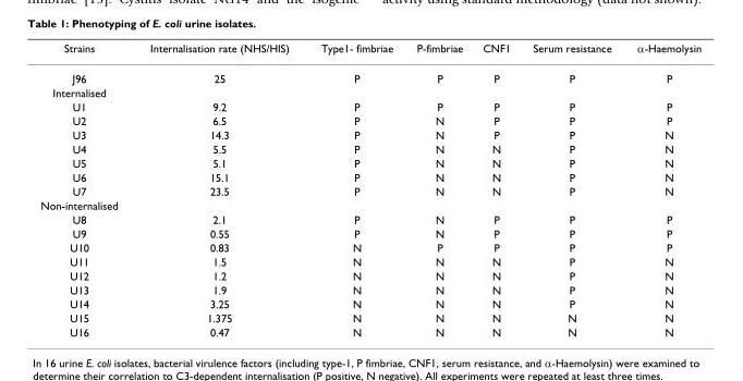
<table><thead><tr><td>Strains</td><td>Internalisation rate (NHS/HIS)</td><td>Type1- fimbriae</td><td>P-fimbriae</td><td>CNF1</td><td>Serum resistance</td><td>α-Haemolysin</td></tr></thead><tbody><tr><td>J96</td><td>25</td><td>P</td><td>P</td><td>P</td><td>P</td><td>P</td></tr><tr><td colspan="7">Internalised</td></tr><tr><td>U1</td><td>9.2</td><td>P</td><td>P</td><td>P</td><td>P</td><td>P</td></tr><tr><td>U2</td><td>6.5</td><td>P</td><td>N</td><td>P</td><td>P</td><td>P</td></tr><tr><td>U3</td><td>14.3</td><td>P</td><td>N</td><td>P</td><td>P</td><td>N</td></tr><tr><td>U4</td><td>5.5</td><td>P</td><td>N</td><td>N</td><td>P</td><td>N</td></tr><tr><td>U5</td><td>5.1</td><td>P</td><td>N</td><td>N</td><td>P</td><td>N</td></tr><tr><td>U6</td><td>15.1</td><td>P</td><td>N</td><td>N</td><td>P</td><td>N</td></tr><tr><td>U7</td><td>23.5</td><td>P</td><td>N</td><td>N</td><td>P</td><td>N</td></tr><tr><td colspan="7">Non-internalised</td></tr><tr><td>U8</td><td>2.1</td><td>P</td><td>N</td><td>P</td><td>P</td><td>P</td></tr><tr><td>U9</td><td>0.55</td><td>P</td><td>N</td><td>P</td><td>P</td><td>P</td></tr><tr><td>U10</td><td>0.83</td><td>N</td><td>P</td><td>P</td><td>P</td><td>P</td></tr><tr><td>U11</td><td>1.5</td><td>N</td><td>N</td><td>N</td><td>P</td><td>N</td></tr><tr><td>U12</td><td>1.2</td><td>N</td><td>N</td><td>N</td><td>P</td><td>N</td></tr><tr><td>U13</td><td>1.9</td><td>N</td><td>N</td><td>N</td><td>P</td><td>N</td></tr><tr><td>U14</td><td>3.25</td><td>N</td><td>N</td><td>N</td><td>P</td><td>N</td></tr><tr><td>U15</td><td>1.375</td><td>N</td><td>N</td><td>N</td><td>N</td><td>N</td></tr><tr><td>U16</td><td>0.47</td><td>N</td><td>N</td><td>N</td><td>N</td><td>N</td></tr></tbody></table>